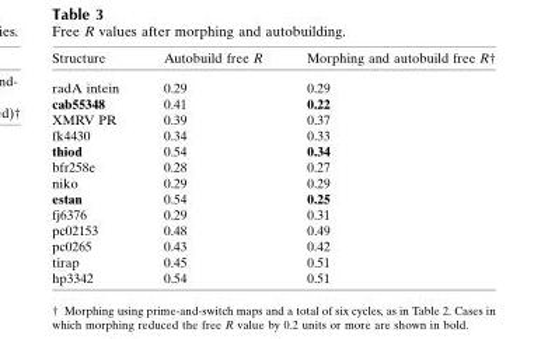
<table><thead><tr><td>Structure</td><td>Autobuild free R</td><td>Morphing and autobuild free R†</td></tr></thead><tbody><tr><td>radA intein</td><td>0.29</td><td>0.29</td></tr><tr><td>cab55348</td><td>0.41</td><td>0.22</td></tr><tr><td>XMRV PR</td><td>0.39</td><td>0.37</td></tr><tr><td>fk4430</td><td>0.34</td><td>0.33</td></tr><tr><td>thiod</td><td>0.54</td><td>0.34</td></tr><tr><td>bfr258e</td><td>0.28</td><td>0.27</td></tr><tr><td>niko</td><td>0.29</td><td>0.29</td></tr><tr><td>estan</td><td>0.54</td><td>0.25</td></tr><tr><td>fj6376</td><td>0.29</td><td>0.31</td></tr><tr><td>pc02153</td><td>0.48</td><td>0.49</td></tr><tr><td>pc0265</td><td>0.43</td><td>0.42</td></tr><tr><td>tirap</td><td>0.45</td><td>0.51</td></tr><tr><td>hp3342</td><td>0.54</td><td>0.51</td></tr></tbody></table>